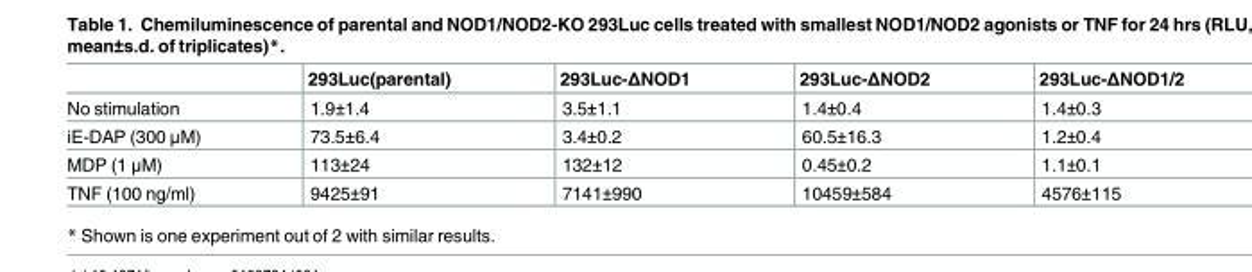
<table><thead><tr><td></td><td>293Luc(parental)</td><td>293Luc-ΔNOD1</td><td>293Luc-ΔNOD2</td><td>293Luc-ΔNOD1/2</td></tr></thead><tbody><tr><td>No stimulation</td><td>1.9±1.4</td><td>3.5±1.1</td><td>1.4±0.4</td><td>1.4±0.3</td></tr><tr><td>iE-DAP (300 μM)</td><td>73.5±6.4</td><td>3.4±0.2</td><td>60.5±16.3</td><td>1.2±0.4</td></tr><tr><td>MDP (1 μM)</td><td>113±24</td><td>132±12</td><td>0.45±0.2</td><td>1.1±0.1</td></tr><tr><td>TNF (100 ng/ml)</td><td>9425±91</td><td>7141±990</td><td>10459±584</td><td>4576±115</td></tr></tbody></table>